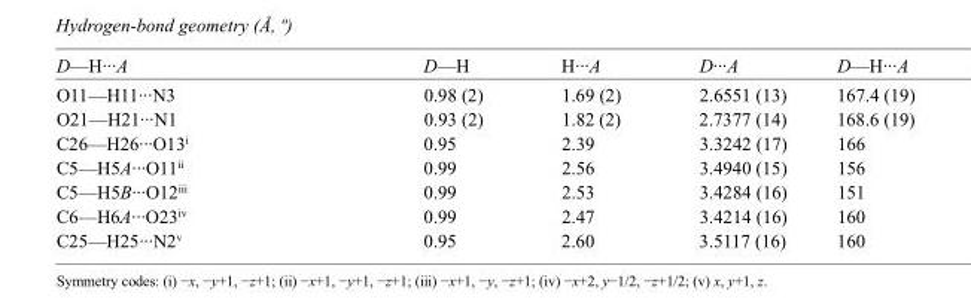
<table><tbody><tr><td>D—H···A</td><td>D—H</td><td>H···A</td><td>D···A</td><td>D—H···A</td></tr><tr><td>O11—H11···N3</td><td>0.98 (2)</td><td>1.69 (2)</td><td>2.6551 (13)</td><td>167.4 (19)</td></tr><tr><td>O21—H21···N1</td><td>0.93 (2)</td><td>1.82 (2)</td><td>2.7377 (14)</td><td>168.6 (19)</td></tr><tr><td>C26—H26···O13<sup>i</sup></td><td>0.95</td><td>2.39</td><td>3.3242 (17)</td><td>166</td></tr><tr><td>C5—H5A···O11<sup>ii</sup></td><td>0.99</td><td>2.56</td><td>3.4940 (15)</td><td>156</td></tr><tr><td>C5—H5B···O12<sup>iii</sup></td><td>0.99</td><td>2.53</td><td>3.4284 (16)</td><td>151</td></tr><tr><td>C6—H6A···O23<sup>iv</sup></td><td>0.99</td><td>2.47</td><td>3.4214 (16)</td><td>160</td></tr><tr><td>C25—H25···N2<sup>v</sup></td><td>0.95</td><td>2.60</td><td>3.5117 (16)</td><td>160</td></tr></tbody></table>